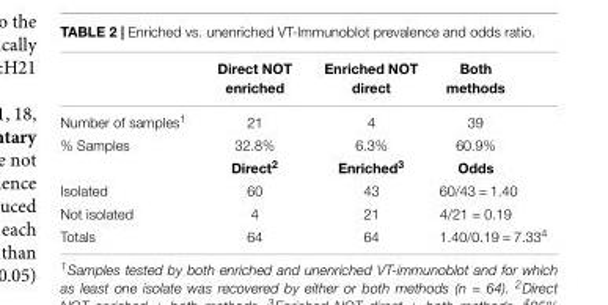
<table><thead><tr><td></td><td>Direct NOT enriched</td><td>Enriched NOT direct</td><td>Both methods</td></tr></thead><tbody><tr><td>Number of samples<sup>1</sup></td><td>21</td><td>4</td><td>39</td></tr><tr><td rowspan="2">% Samples</td><td>32.8%</td><td>6.3%</td><td>60.9%</td></tr><tr><td>Direct<sup>2</sup></td><td>Enriched<sup>3</sup></td><td>Odds</td></tr><tr><td>Isolated</td><td>60</td><td>43</td><td>60/43 = 1.40</td></tr><tr><td>Not isolated</td><td>4</td><td>21</td><td>4/21 = 0.19</td></tr><tr><td>Totals</td><td>64</td><td>64</td><td>1.40/0.19 = 7.33<sup>4</sup></td></tr></tbody></table>